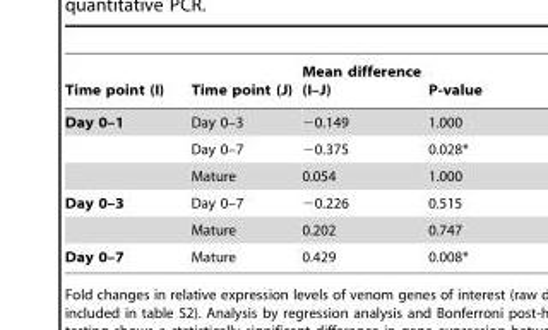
<table><thead><tr><td>Time point (I)</td><td>Time point (J)</td><td>Mean difference (I–J)</td><td>P-value</td></tr></thead><tbody><tr><td rowspan="3">Day 0–1</td><td>Day 0–3</td><td>−0.149</td><td>1.000</td></tr><tr><td>Day 0–7</td><td>−0.375</td><td>0.028*</td></tr><tr><td>Mature</td><td>0.054</td><td>1.000</td></tr><tr><td rowspan="2">Day 0–3</td><td>Day 0–7</td><td>−0.226</td><td>0.515</td></tr><tr><td>Mature</td><td>0.202</td><td>0.747</td></tr><tr><td>Day 0–7</td><td>Mature</td><td>0.429</td><td>0.008*</td></tr></tbody></table>